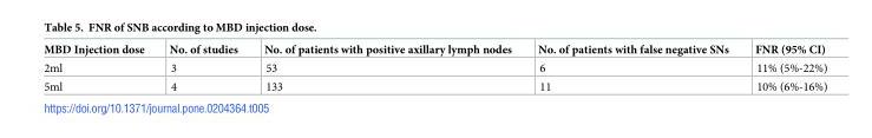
<table><thead><tr><td>MBD Injection dose</td><td>No. of studies</td><td>No. of patients with positive axillary lymph nodes</td><td>No. of patients with false negative SNs</td><td>FNR (95% CI)</td></tr></thead><tbody><tr><td>2ml</td><td>3</td><td>53</td><td>6</td><td>11% (5%-22%)</td></tr><tr><td>5ml</td><td>4</td><td>133</td><td>11</td><td>10% (6%-16%)</td></tr></tbody></table>